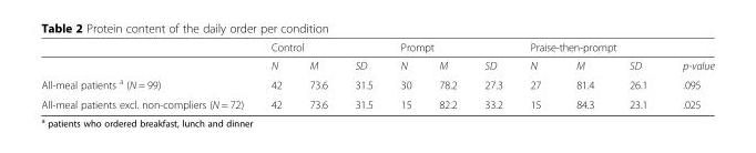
<table><thead><tr><td rowspan="2"></td><td colspan="3">Control</td><td colspan="3">Prompt</td><td colspan="3">Praise-then-prompt</td><td rowspan="2">p-value</td></tr><tr><td>N</td><td>M</td><td>SD</td><td>N</td><td>M</td><td>SD</td><td>N</td><td>M</td><td>SD</td></tr></thead><tbody><tr><td>All-meal patients <sup>a</sup> (N = 99)</td><td>42</td><td>73.6</td><td>31.5</td><td>30</td><td>78.2</td><td>27.3</td><td>27</td><td>81.4</td><td>26.1</td><td>.095</td></tr><tr><td>All-meal patients excl. non-compliers (N = 72)</td><td>42</td><td>73.6</td><td>31.5</td><td>15</td><td>82.2</td><td>33.2</td><td>15</td><td>84.3</td><td>23.1</td><td>.025</td></tr></tbody></table>